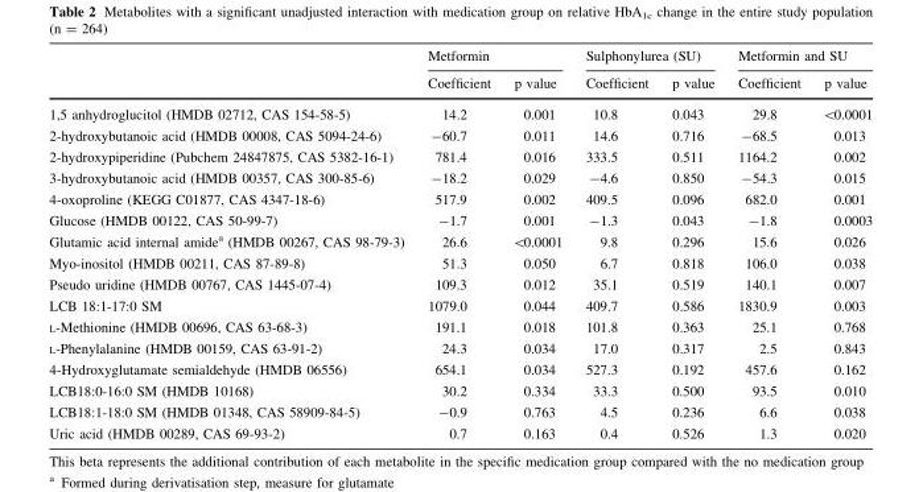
<table><thead><tr><td rowspan="2"></td><td colspan="2">Metformin</td><td colspan="2">Sulphonylurea (SU)</td><td colspan="2">Metformin and SU</td></tr><tr><td>Coefficient</td><td>p value</td><td>Coefficient</td><td>p value</td><td>Coefficient</td><td>p value</td></tr></thead><tbody><tr><td>1,5 anhydroglucitol (HMDB 02712, CAS 154-58-5)</td><td>14.2</td><td>0.001</td><td>10.8</td><td>0.043</td><td>29.8</td><td>&lt;0.0001</td></tr><tr><td>2-hydroxybutanoic acid (HMDB 00008, CAS 5094-24-6)</td><td>-60.7</td><td>0.011</td><td>14.6</td><td>0.716</td><td>-68.5</td><td>0.013</td></tr><tr><td>2-hydroxypiperidine (Pubchem 24847875, CAS 5382-16-1)</td><td>781.4</td><td>0.016</td><td>333.5</td><td>0.511</td><td>1164.2</td><td>0.002</td></tr><tr><td>3-hydroxybutanoic acid (HMDB 00357, CAS 300-85-6)</td><td>-18.2</td><td>0.029</td><td>-4.6</td><td>0.850</td><td>-54.3</td><td>0.015</td></tr><tr><td>4-oxoproline (KEGG C01877, CAS 4347-18-6)</td><td>517.9</td><td>0.002</td><td>409.5</td><td>0.096</td><td>682.0</td><td>0.001</td></tr><tr><td>Glucose (HMDB 00122, CAS 50-99-7)</td><td>-1.7</td><td>0.001</td><td>-1.3</td><td>0.043</td><td>-1.8</td><td>0.0003</td></tr><tr><td>Glutamic acid internal amide<sup>a</sup> (HMDB 00267, CAS 98-79-3)</td><td>26.6</td><td>&lt;0.0001</td><td>9.8</td><td>0.296</td><td>15.6</td><td>0.026</td></tr><tr><td>Myo-inositol (HMDB 00211, CAS 87-89-8)</td><td>51.3</td><td>0.050</td><td>6.7</td><td>0.818</td><td>106.0</td><td>0.038</td></tr><tr><td>Pseudo uridine (HMDB 00767, CAS 1445-07-4)</td><td>109.3</td><td>0.012</td><td>35.1</td><td>0.519</td><td>140.1</td><td>0.007</td></tr><tr><td>LCB 18:1-17:0 SM</td><td>1079.0</td><td>0.044</td><td>409.7</td><td>0.586</td><td>1830.9</td><td>0.003</td></tr><tr><td>L-Methionine (HMDB 00696, CAS 63-68-3)</td><td>191.1</td><td>0.018</td><td>101.8</td><td>0.363</td><td>25.1</td><td>0.768</td></tr><tr><td>L-Phenylalanine (HMDB 00159, CAS 63-91-2)</td><td>24.3</td><td>0.034</td><td>17.0</td><td>0.317</td><td>2.5</td><td>0.843</td></tr><tr><td>4-Hydroxyglutamate semialdehyde (HMDB 06556)</td><td>654.1</td><td>0.034</td><td>527.3</td><td>0.192</td><td>457.6</td><td>0.162</td></tr><tr><td>LCB18:0-16:0 SM (HMDB 10168)</td><td>30.2</td><td>0.334</td><td>33.3</td><td>0.500</td><td>93.5</td><td>0.010</td></tr><tr><td>LCB18:1-18:0 SM (HMDB 01348, CAS 58909-84-5)</td><td>-0.9</td><td>0.763</td><td>4.5</td><td>0.236</td><td>6.6</td><td>0.038</td></tr><tr><td>Uric acid (HMDB 00289, CAS 69-93-2)</td><td>0.7</td><td>0.163</td><td>0.4</td><td>0.526</td><td>1.3</td><td>0.020</td></tr></tbody></table>